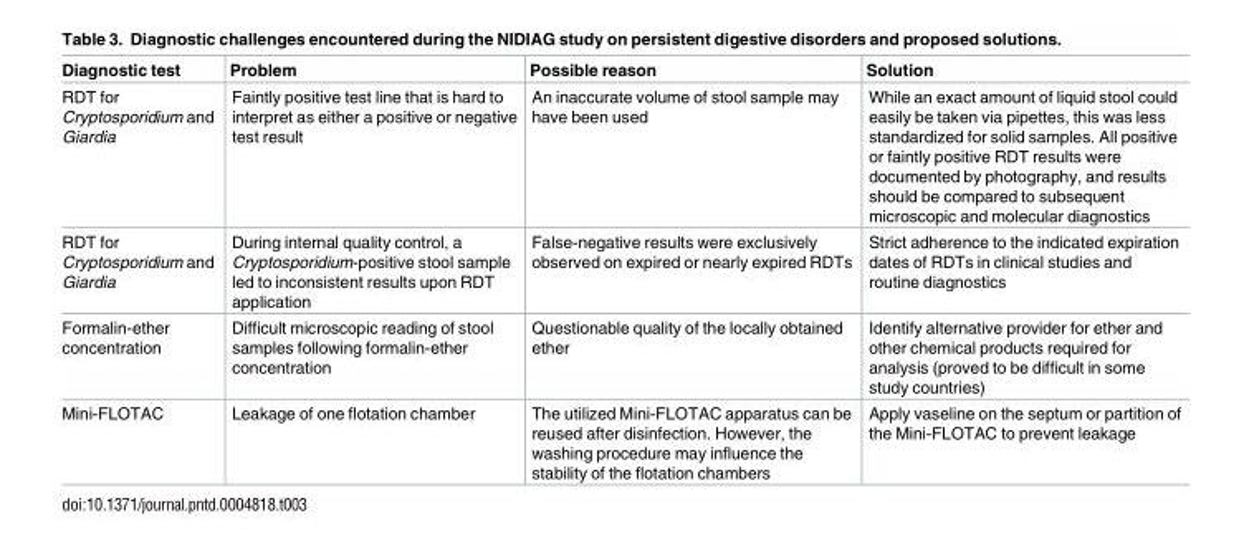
<table><thead><tr><td>Diagnostic test</td><td>Problem</td><td>Possible reason</td><td>Solution</td></tr></thead><tbody><tr><td>RDT for Cryptosporidium and Giardia</td><td>Faintly positive test line that is hard to interpret as either a positive or negative test result</td><td>An inaccurate volume of stool sample may have been used</td><td>While an exact amount of liquid stool could easily be taken via pipettes, this was less standardized for solid samples. All positive or faintly positive RDT results were documented by photography, and results should be compared to subsequent microscopic and molecular diagnostics</td></tr><tr><td>RDT for Cryptosporidium and Giardia</td><td>During internal quality control, a Cryptosporidium-positive stool sample led to inconsistent results upon RDT application</td><td>False-negative results were exclusively observed on expired or nearly expired RDTs</td><td>Strict adherence to the indicated expiration dates of RDTs in clinical studies and routine diagnostics</td></tr><tr><td>Formalin-ether concentration</td><td>Difficult microscopic reading of stool samples following formalin-ether concentration</td><td>Questionable quality of the locally obtained ether</td><td>Identify alternative provider for ether and other chemical products required for analysis (proved to be difficult in some study countries)</td></tr><tr><td>Mini-FLOTAC</td><td>Leakage of one flotation chamber</td><td>The utilized Mini-FLOTAC apparatus can be reused after disinfection. However, the washing procedure may influence the stability of the flotation chambers</td><td>Apply vaseline on the septum or partition of the Mini-FLOTAC to prevent leakage</td></tr></tbody></table>